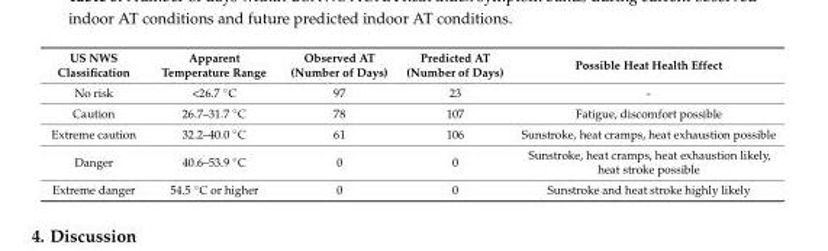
<table><thead><tr><td>US NWS Classification</td><td>Apparent Temperature Range</td><td>Observed AT (Number of Days)</td><td>Predicted AT (Number of Days)</td><td>Possible Heat Health Effect</td></tr></thead><tbody><tr><td>No risk</td><td>&lt;26.7 ◦C</td><td>97</td><td>23</td><td>-</td></tr><tr><td>Caution</td><td>26.7–31.7 ◦C</td><td>78</td><td>107</td><td>Fatigue, discomfort possible</td></tr><tr><td>Extreme caution</td><td>32.2–40.0 ◦C</td><td>61</td><td>106</td><td>Sunstroke, heat cramps, heat exhaustion possible</td></tr><tr><td>Danger</td><td>40.6–53.9 ◦C</td><td>0</td><td>0</td><td>Sunstroke, heat cramps, heat exhaustion likely, heat stroke possible</td></tr><tr><td>Extreme danger</td><td>54.5 ◦C or higher</td><td>0</td><td>0</td><td>Sunstroke and heat stroke highly likely</td></tr></tbody></table>